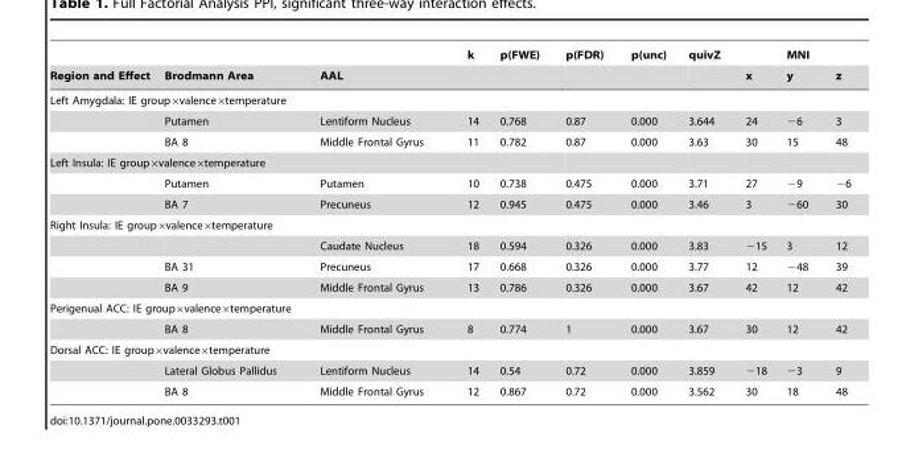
<table><thead><tr><td rowspan="2">Region and Effect</td><td rowspan="2">Brodmann Area</td><td rowspan="2">AAL</td><td rowspan="2">k</td><td rowspan="2">p(FWE)</td><td rowspan="2">p(FDR)</td><td rowspan="2">p(unc)</td><td rowspan="2">quivZ</td><td rowspan="2">x</td><td rowspan="2">MNI y</td><td rowspan="2">z</td></tr><tr></tr></thead><tbody><tr><td colspan="11">Left Amygdala: IE group×valence×temperature</td></tr><tr><td></td><td>Putamen</td><td>Lentiform Nucleus</td><td>14</td><td>0.768</td><td>0.87</td><td>0.000</td><td>3.644</td><td>24</td><td>−6</td><td>3</td></tr><tr><td></td><td>BA 8</td><td>Middle Frontal Gyrus</td><td>11</td><td>0.782</td><td>0.87</td><td>0.000</td><td>3.63</td><td>30</td><td>15</td><td>48</td></tr><tr><td colspan="11">Left Insula: IE group×valence×temperature</td></tr><tr><td></td><td>Putamen</td><td>Putamen</td><td>10</td><td>0.738</td><td>0.475</td><td>0.000</td><td>3.71</td><td>27</td><td>−9</td><td>−6</td></tr><tr><td></td><td>BA 7</td><td>Precuneus</td><td>12</td><td>0.945</td><td>0.475</td><td>0.000</td><td>3.46</td><td>3</td><td>−60</td><td>30</td></tr><tr><td colspan="11">Right Insula: IE group×valence×temperature</td></tr><tr><td></td><td></td><td>Caudate Nucleus</td><td>18</td><td>0.594</td><td>0.326</td><td>0.000</td><td>3.83</td><td>−15</td><td>3</td><td>12</td></tr><tr><td></td><td>BA 31</td><td>Precuneus</td><td>17</td><td>0.668</td><td>0.326</td><td>0.000</td><td>3.77</td><td>12</td><td>−48</td><td>39</td></tr><tr><td></td><td>BA 9</td><td>Middle Frontal Gyrus</td><td>13</td><td>0.786</td><td>0.326</td><td>0.000</td><td>3.67</td><td>42</td><td>12</td><td>42</td></tr><tr><td colspan="11">Perigenual ACC: IE group×valence×temperature</td></tr><tr><td></td><td>BA 8</td><td>Middle Frontal Gyrus</td><td>8</td><td>0.774</td><td>1</td><td>0.000</td><td>3.67</td><td>30</td><td>12</td><td>42</td></tr><tr><td colspan="11">Dorsal ACC: IE group×valence×temperature</td></tr><tr><td></td><td>Lateral Globus Pallidus</td><td>Lentiform Nucleus</td><td>14</td><td>0.54</td><td>0.72</td><td>0.000</td><td>3.859</td><td>−18</td><td>−3</td><td>9</td></tr><tr><td></td><td>BA 8</td><td>Middle Frontal Gyrus</td><td>12</td><td>0.867</td><td>0.72</td><td>0.000</td><td>3.562</td><td>30</td><td>18</td><td>48</td></tr></tbody></table>